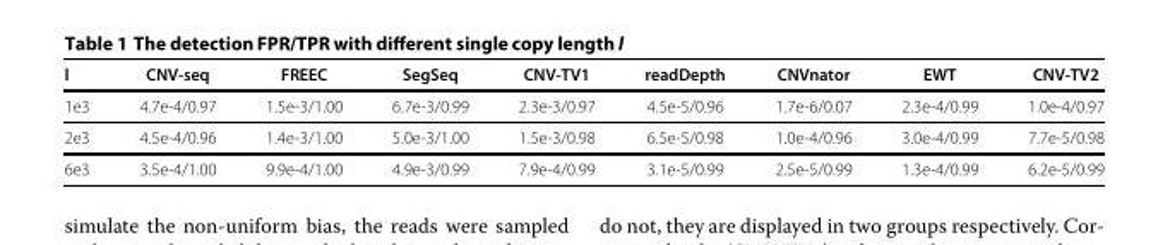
<table><thead><tr><td>l</td><td>CNV-seq</td><td>FREEC</td><td>SegSeq</td><td>CNV-TV1</td><td>readDepth</td><td>CNVnator</td><td>EWT</td><td>CNV-TV2</td></tr></thead><tbody><tr><td>1e3</td><td>4.7e-4/0.97</td><td>1.5e-3/1.00</td><td>6.7e-3/0.99</td><td>2.3e-3/0.97</td><td>4.5e-5/0.96</td><td>1.7e-6/0.07</td><td>2.3e-4/0.99</td><td>1.0e-4/0.97</td></tr><tr><td>2e3</td><td>4.5e-4/0.96</td><td>1.4e-3/1.00</td><td>5.0e-3/1.00</td><td>1.5e-3/0.98</td><td>6.5e-5/0.98</td><td>1.0e-4/0.96</td><td>3.0e-4/0.99</td><td>7.7e-5/0.98</td></tr><tr><td>6e3</td><td>3.5e-4/1.00</td><td>9.9e-4/1.00</td><td>4.9e-3/0.99</td><td>7.9e-4/0.99</td><td>3.1e-5/0.99</td><td>2.5e-5/0.99</td><td>1.3e-4/0.99</td><td>6.2e-5/0.99</td></tr></tbody></table>